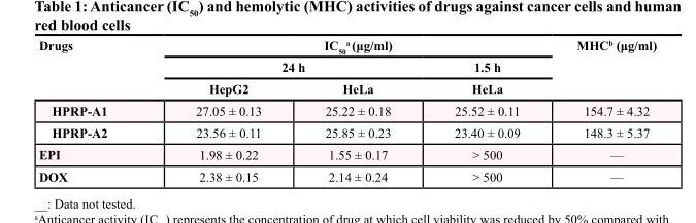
<table><thead><tr><td rowspan="3">Drugs</td><td colspan="3">IC<sub>50</sub> <sup>a</sup> (μg/ml)</td><td rowspan="3">MHC<sup>b</sup> (μg/ml)</td></tr><tr><td colspan="2">24 h</td><td rowspan="2">1.5 h HeLa</td></tr><tr><td>HepG2</td><td>HeLa</td></tr></thead><tbody><tr><td>HPRP-A1</td><td>27.05 ± 0.13</td><td>25.22 ± 0.18</td><td>25.52 ± 0.11</td><td>154.7 ± 4.32</td></tr><tr><td>HPRP-A2</td><td>23.56 ± 0.11</td><td>25.85 ± 0.23</td><td>23.40 ± 0.09</td><td>148.3 ± 5.37</td></tr><tr><td>EPI</td><td>1.98 ± 0.22</td><td>1.55 ± 0.17</td><td>&gt; 500</td><td>—</td></tr><tr><td>DOX</td><td>2.38 ± 0.15</td><td>2.14 ± 0.24</td><td>&gt; 500</td><td>—</td></tr></tbody></table>